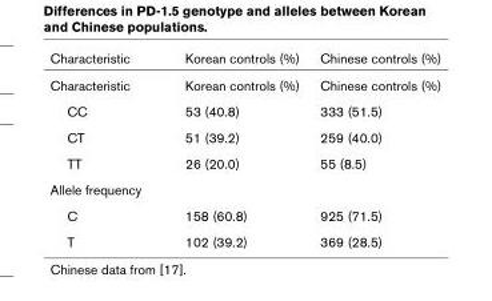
<table><thead><tr><td>Characteristic</td><td>Korean controls (%)</td><td>Chinese controls (%)</td></tr></thead><tbody><tr><td>Characteristic</td><td>Korean controls (%)</td><td>Chinese controls (%)</td></tr><tr><td>CC</td><td>53 (40.8)</td><td>333 (51.5)</td></tr><tr><td>CT</td><td>51 (39.2)</td><td>259 (40.0)</td></tr><tr><td>TT</td><td>26 (20.0)</td><td>55 (8.5)</td></tr><tr><td colspan="3">Allele frequency</td></tr><tr><td>C</td><td>158 (60.8)</td><td>925 (71.5)</td></tr><tr><td>T</td><td>102 (39.2)</td><td>369 (28.5)</td></tr></tbody></table>